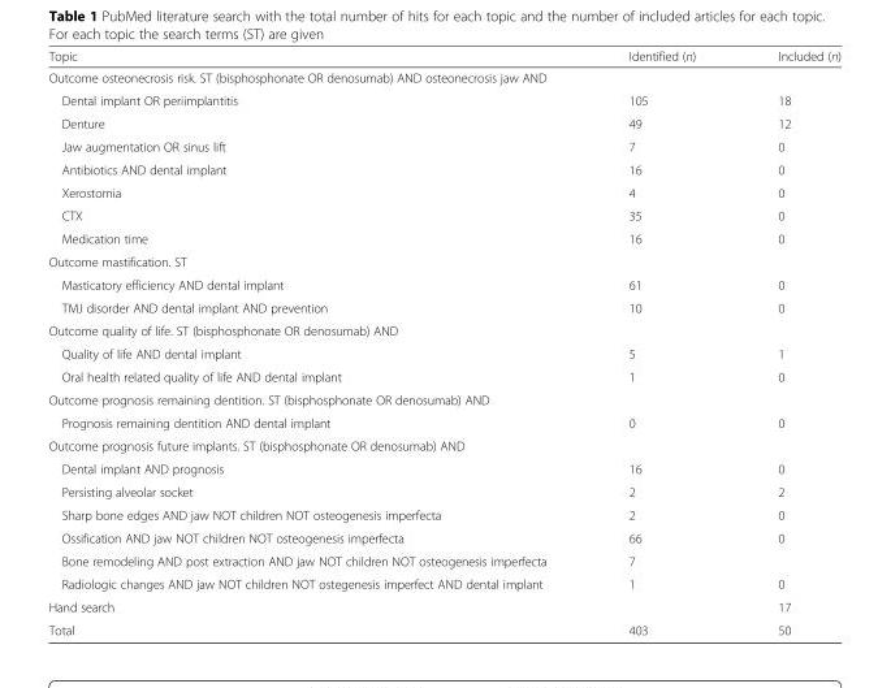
<table><thead><tr><td>Topic</td><td>Identified (n)</td><td>Included (n)</td></tr></thead><tbody><tr><td colspan="3">Outcome osteonecrosis risk. ST (bisphosphonate OR denosumab) AND osteonecrosis jaw AND</td></tr><tr><td>Dental implant OR periimplantitis</td><td>105</td><td>18</td></tr><tr><td>Denture</td><td>49</td><td>12</td></tr><tr><td>Jaw augmentation OR sinus lift</td><td>7</td><td>0</td></tr><tr><td>Antibiotics AND dental implant</td><td>16</td><td>0</td></tr><tr><td>Xerostomia</td><td>4</td><td>0</td></tr><tr><td>CTX</td><td>35</td><td>0</td></tr><tr><td>Medication time</td><td>16</td><td>0</td></tr><tr><td colspan="3">Outcome mastification. ST</td></tr><tr><td>Masticatory efficiency AND dental implant</td><td>61</td><td>0</td></tr><tr><td>TMJ disorder AND dental implant AND prevention</td><td>10</td><td>0</td></tr><tr><td colspan="3">Outcome quality of life. ST (bisphosphonate OR denosumab) AND</td></tr><tr><td>Quality of life AND dental implant</td><td>5</td><td>1</td></tr><tr><td>Oral health related quality of life AND dental implant</td><td>1</td><td>0</td></tr><tr><td colspan="3">Outcome prognosis remaining dentition. ST (bisphosphonate OR denosumab) AND</td></tr><tr><td>Prognosis remaining dentition AND dental implant</td><td>0</td><td>0</td></tr><tr><td colspan="3">Outcome prognosis future implants. ST (bisphosphonate OR denosumab) AND</td></tr><tr><td>Dental implant AND prognosis</td><td>16</td><td>0</td></tr><tr><td>Persisting alveolar socket</td><td>2</td><td>2</td></tr><tr><td>Sharp bone edges AND jaw NOT children NOT osteogenesis imperfecta</td><td>2</td><td>0</td></tr><tr><td>Ossification AND jaw NOT children NOT osteogenesis imperfecta</td><td>66</td><td>0</td></tr><tr><td>Bone remodeling AND post extraction AND jaw NOT children NOT osteogenesis imperfecta</td><td>7</td><td></td></tr><tr><td>Radiologic changes AND jaw NOT children NOT ostegenesis imperfect AND dental implant</td><td>1</td><td>0</td></tr><tr><td>Hand search</td><td></td><td>17</td></tr><tr><td>Total</td><td>403</td><td>50</td></tr></tbody></table>